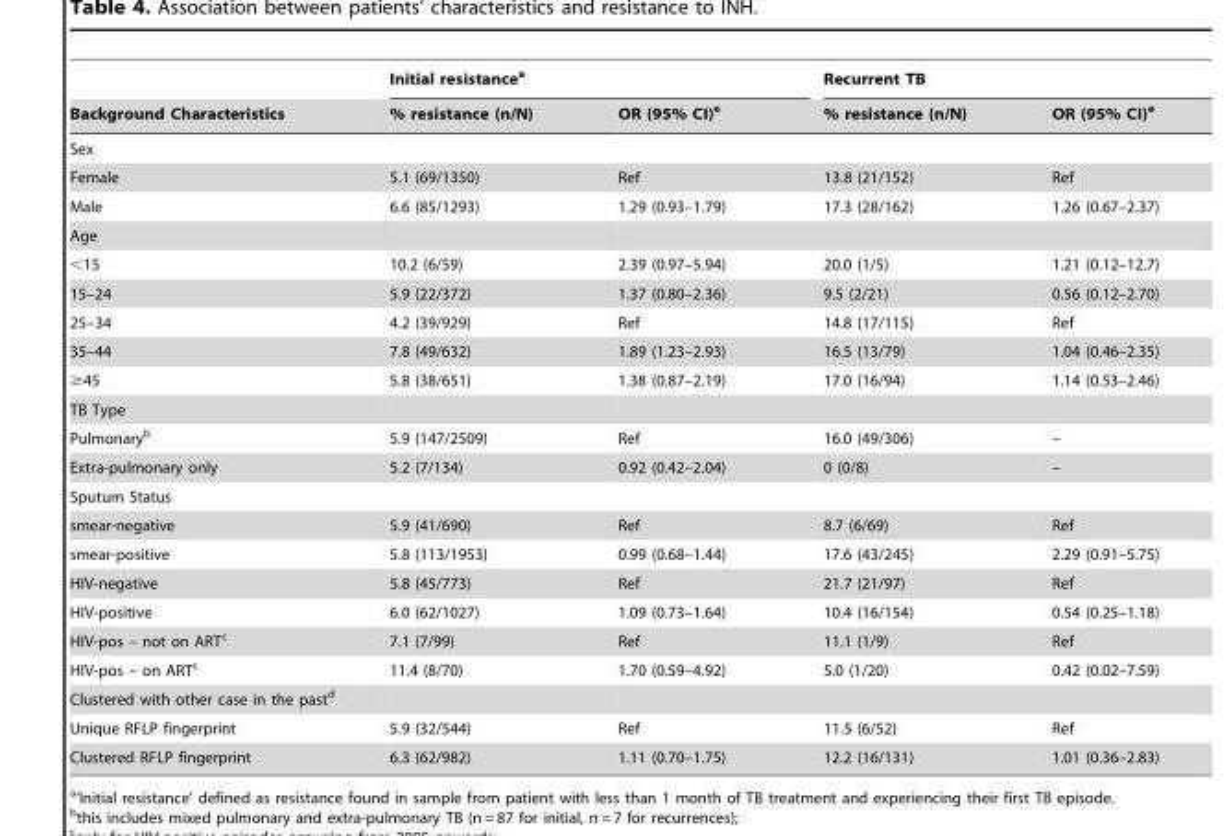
<table><thead><tr><td rowspan="2">Background Characteristics</td><td colspan="2">Initial resistance<sup>a</sup></td><td colspan="2">Recurrent TB</td></tr><tr><td>% resistance (n/N)</td><td>OR (95% CI)<sup>e</sup></td><td>% resistance (n/N)</td><td>OR (95% CI)<sup>e</sup></td></tr></thead><tbody><tr><td colspan="5">Sex</td></tr><tr><td>Female</td><td>5.1 (69/1350)</td><td>Ref</td><td>13.8 (21/152)</td><td>Ref</td></tr><tr><td>Male</td><td>6.6 (85/1293)</td><td>1.29 (0.93–1.79)</td><td>17.3 (28/162)</td><td>1.26 (0.67–2.37)</td></tr><tr><td colspan="5">Age</td></tr><tr><td>&lt;15</td><td>10.2 (6/59)</td><td>2.39 (0.97–5.94)</td><td>20.0 (1/5)</td><td>1.21 (0.12–12.7)</td></tr><tr><td>15–24</td><td>5.9 (22/372)</td><td>1.37 (0.80–2.36)</td><td>9.5 (2/21)</td><td>0.56 (0.12–2.70)</td></tr><tr><td>25–34</td><td>4.2 (39/929)</td><td>Ref</td><td>14.8 (17/115)</td><td>Ref</td></tr><tr><td>35–44</td><td>7.8 (49/632)</td><td>1.89 (1.23–2.93)</td><td>16.5 (13/79)</td><td>1.04 (0.46–2.35)</td></tr><tr><td>≥45</td><td>5.8 (38/651)</td><td>1.38 (0.87–2.19)</td><td>17.0 (16/94)</td><td>1.14 (0.53–2.46)</td></tr><tr><td colspan="5">TB Type</td></tr><tr><td>Pulmonary<sup>b</sup></td><td>5.9 (147/2509)</td><td>Ref</td><td>16.0 (49/306)</td><td>–</td></tr><tr><td>Extra-pulmonary only</td><td>5.2 (7/134)</td><td>0.92 (0.42–2.04)</td><td>0 (0/8)</td><td>–</td></tr><tr><td colspan="5">Sputum Status</td></tr><tr><td>smear-negative</td><td>5.9 (41/690)</td><td>Ref</td><td>8.7 (6/69)</td><td>Ref</td></tr><tr><td>smear-positive</td><td>5.8 (113/1953)</td><td>0.99 (0.68–1.44)</td><td>17.6 (43/245)</td><td>2.29 (0.91–5.75)</td></tr><tr><td>HIV-negative</td><td>5.8 (45/773)</td><td>Ref</td><td>21.7 (21/97)</td><td>Ref</td></tr><tr><td>HIV-positive</td><td>6.0 (62/1027)</td><td>1.09 (0.73–1.64)</td><td>10.4 (16/154)</td><td>0.54 (0.25–1.18)</td></tr><tr><td>HIV-pos – not on ART<sup>c</sup></td><td>7.1 (7/99)</td><td>Ref</td><td>11.1 (1/9)</td><td>Ref</td></tr><tr><td>HIV-pos – on ART<sup>c</sup></td><td>11.4 (8/70)</td><td>1.70 (0.59–4.92)</td><td>5.0 (1/20)</td><td>0.42 (0.02–7.59)</td></tr><tr><td colspan="5">Clustered with other case in the past<sup>d</sup></td></tr><tr><td>Unique RFLP fingerprint</td><td>5.9 (32/544)</td><td>Ref</td><td>11.5 (6/52)</td><td>Ref</td></tr><tr><td>Clustered RFLP fingerprint</td><td>6.3 (62/982)</td><td>1.11 (0.70–1.75)</td><td>12.2 (16/131)</td><td>1.01 (0.36–2.83)</td></tr></tbody></table>